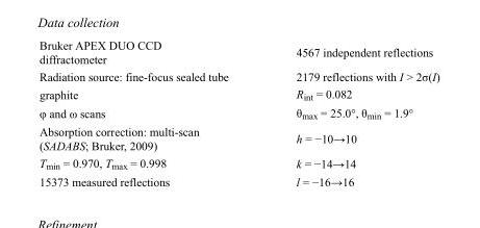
<table><tbody><tr><td>Bruker APEX DUO CCD diffractometer</td><td>4567 independent reflections</td></tr><tr><td>Radiation source: fine-focus sealed tube</td><td>2179 reflections with I &gt; 2σ(I)</td></tr><tr><td>graphite</td><td>R<sub>int</sub> = 0.082</td></tr><tr><td>φ and ω scans</td><td>θ<sub>max</sub> = 25.0°, θ<sub>min</sub> = 1.9°</td></tr><tr><td>Absorption correction: multi-scan (SADABS; Bruker, 2009)</td><td>h = −10→10</td></tr><tr><td>T<sub>min</sub> = 0.970, T<sub>max</sub> = 0.998</td><td>k = −14→14</td></tr><tr><td>15373 measured reflections</td><td>l = −16→16</td></tr></tbody></table>